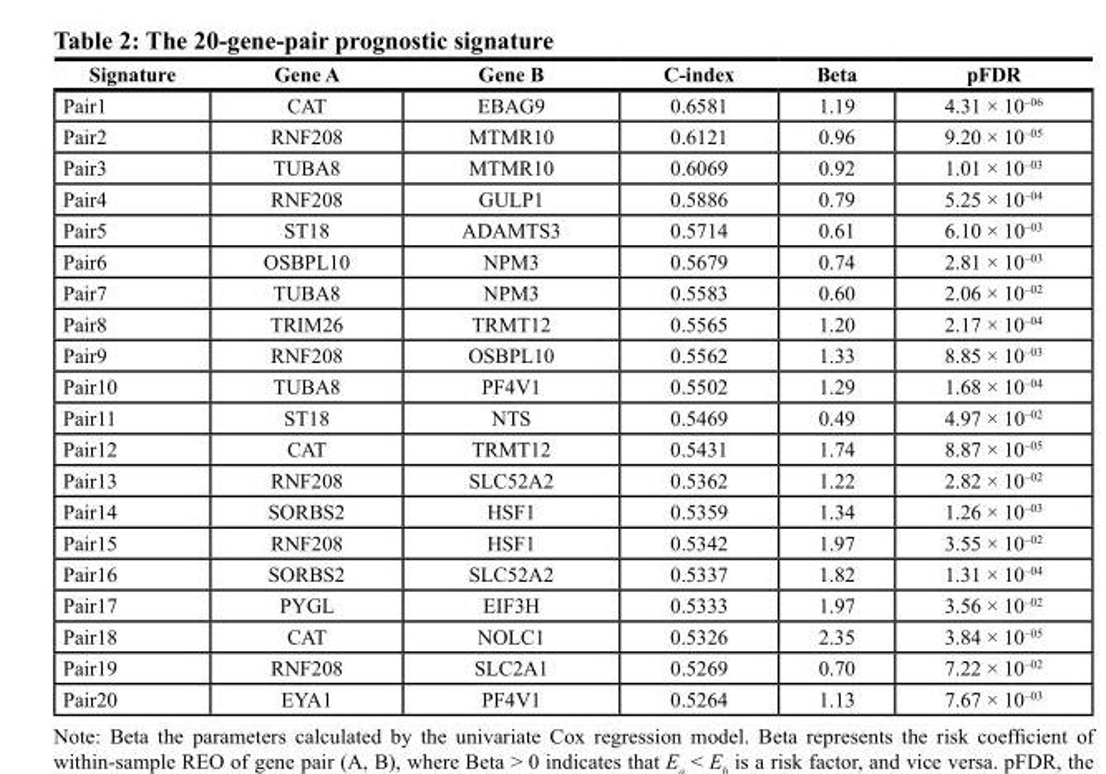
<table><thead><tr><td>signature</td><td>Gene A</td><td>Gene b</td><td>c‑index</td><td>beta</td><td>pFdr</td></tr></thead><tbody><tr><td>Pair1</td><td>CAT</td><td>EBAG9</td><td>0.6581</td><td>1.19</td><td>4.31 × 10<sup>–06</sup></td></tr><tr><td>Pair2</td><td>RNF208</td><td>MTMR10</td><td>0.6121</td><td>0.96</td><td>9.20 × 10<sup>–05</sup></td></tr><tr><td>Pair3</td><td>TUBA8</td><td>MTMR10</td><td>0.6069</td><td>0.92</td><td>1.01 × 10<sup>–03</sup></td></tr><tr><td>Pair4</td><td>RNF208</td><td>GULP1</td><td>0.5886</td><td>0.79</td><td>5.25 × 10<sup>–04</sup></td></tr><tr><td>Pair5</td><td>ST18</td><td>ADAMTS3</td><td>0.5714</td><td>0.61</td><td>6.10 × 10<sup>–03</sup></td></tr><tr><td>Pair6</td><td>OSBPL10</td><td>NPM3</td><td>0.5679</td><td>0.74</td><td>2.81 × 10<sup>–03</sup></td></tr><tr><td>Pair7</td><td>TUBA8</td><td>NPM3</td><td>0.5583</td><td>0.60</td><td>2.06 × 10<sup>–02</sup></td></tr><tr><td>Pair8</td><td>TRIM26</td><td>TRMT12</td><td>0.5565</td><td>1.20</td><td>2.17 × 10<sup>–04</sup></td></tr><tr><td>Pair9</td><td>RNF208</td><td>OSBPL10</td><td>0.5562</td><td>1.33</td><td>8.85 × 10<sup>–03</sup></td></tr><tr><td>Pair10</td><td>TUBA8</td><td>PF4V1</td><td>0.5502</td><td>1.29</td><td>1.68 × 10<sup>–04</sup></td></tr><tr><td>Pair11</td><td>ST18</td><td>NTS</td><td>0.5469</td><td>0.49</td><td>4.97 × 10<sup>–02</sup></td></tr><tr><td>Pair12</td><td>CAT</td><td>TRMT12</td><td>0.5431</td><td>1.74</td><td>8.87 × 10<sup>–05</sup></td></tr><tr><td>Pair13</td><td>RNF208</td><td>SLC52A2</td><td>0.5362</td><td>1.22</td><td>2.82 × 10<sup>–02</sup></td></tr><tr><td>Pair14</td><td>SORBS2</td><td>HSF1</td><td>0.5359</td><td>1.34</td><td>1.26 × 10<sup>–03</sup></td></tr><tr><td>Pair15</td><td>RNF208</td><td>HSF1</td><td>0.5342</td><td>1.97</td><td>3.55 × 10<sup>–02</sup></td></tr><tr><td>Pair16</td><td>SORBS2</td><td>SLC52A2</td><td>0.5337</td><td>1.82</td><td>1.31 × 10<sup>–04</sup></td></tr><tr><td>Pair17</td><td>PYGL</td><td>EIF3H</td><td>0.5333</td><td>1.97</td><td>3.56 × 10<sup>–02</sup></td></tr><tr><td>Pair18</td><td>CAT</td><td>NOLC1</td><td>0.5326</td><td>2.35</td><td>3.84 × 10<sup>–05</sup></td></tr><tr><td>Pair19</td><td>RNF208</td><td>SLC2A1</td><td>0.5269</td><td>0.70</td><td>7.22 × 10<sup>–02</sup></td></tr><tr><td>Pair20</td><td>EYA1</td><td>PF4V1</td><td>0.5264</td><td>1.13</td><td>7.67 × 10<sup>–03</sup></td></tr></tbody></table>